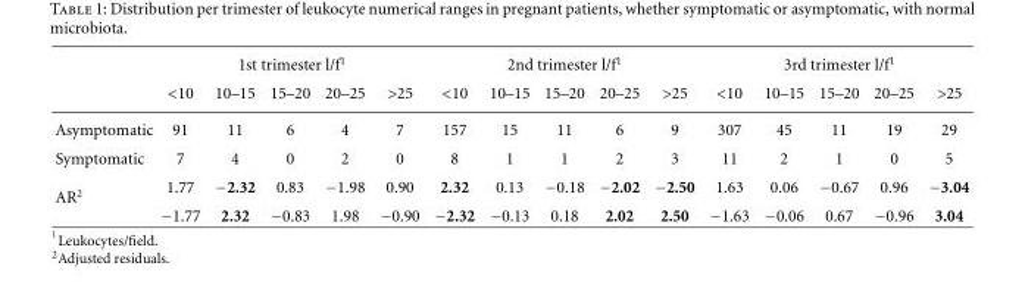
<table><thead><tr><td rowspan="2"></td><td colspan="5">1st trimester l/f<sup>1</sup></td><td colspan="5">2nd trimester l/f<sup>1</sup></td><td colspan="5">3rd trimester l/f<sup>1</sup></td></tr><tr><td>&lt;10</td><td>10–15</td><td>15–20</td><td>20–25</td><td>&gt;25</td><td>&lt;10</td><td>10–15</td><td>15–20</td><td>20–25</td><td>&gt;25</td><td>&lt;10</td><td>10–15</td><td>15–20</td><td>20–25</td><td>&gt;25</td></tr></thead><tbody><tr><td>Asymptomatic</td><td>91</td><td>11</td><td>6</td><td>4</td><td>7</td><td>157</td><td>15</td><td>11</td><td>6</td><td>9</td><td>307</td><td>45</td><td>11</td><td>19</td><td>29</td></tr><tr><td>Symptomatic</td><td>7</td><td>4</td><td>0</td><td>2</td><td>0</td><td>8</td><td>1</td><td>1</td><td>2</td><td>3</td><td>11</td><td>2</td><td>1</td><td>0</td><td>5</td></tr><tr><td rowspan="2">AR<sup>2</sup></td><td>1.77</td><td>−2.32</td><td>0.83</td><td>−1.98</td><td>0.90</td><td>2.32</td><td>0.13</td><td>−0.18</td><td>−2.02</td><td>−2.50</td><td>1.63</td><td>0.06</td><td>−0.67</td><td>0.96</td><td>−3.04</td></tr><tr><td>−1.77</td><td>2.32</td><td>−0.83</td><td>1.98</td><td>−0.90</td><td>−2.32</td><td>−0.13</td><td>0.18</td><td>2.02</td><td>2.50</td><td>−1.63</td><td>−0.06</td><td>0.67</td><td>−0.96</td><td>3.04</td></tr></tbody></table>